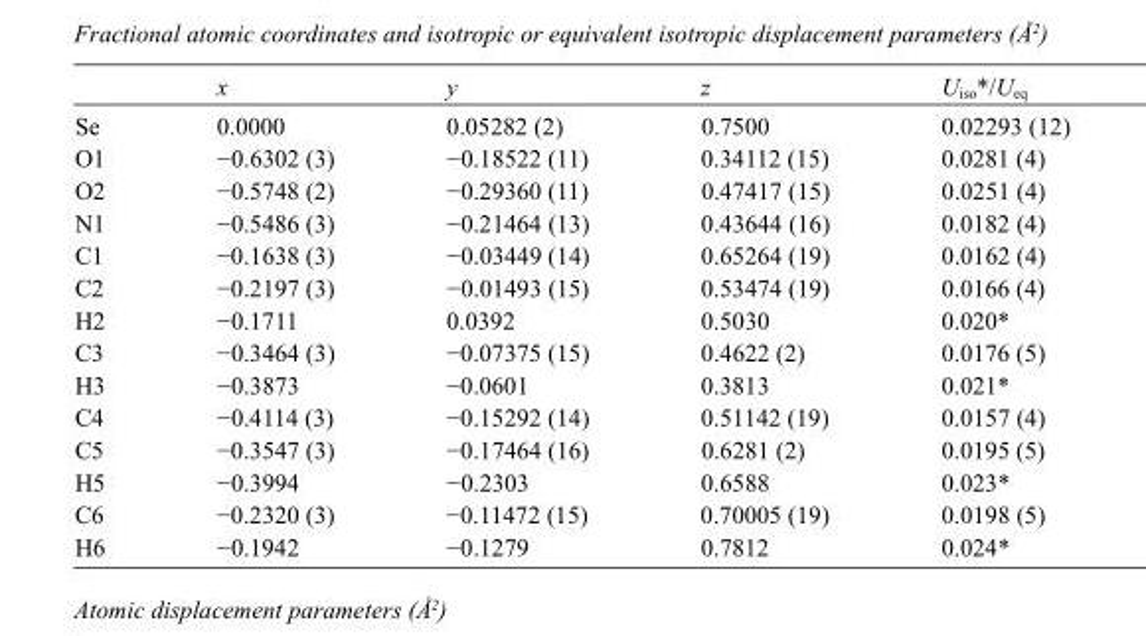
<table><thead><tr><td></td><td>x</td><td>y</td><td>z</td><td>U<sub>iso</sub>*/U<sub>eq</sub></td></tr></thead><tbody><tr><td>Se</td><td>0.0000</td><td>0.05282 (2)</td><td>0.7500</td><td>0.02293 (12)</td></tr><tr><td>O1</td><td>−0.6302 (3)</td><td>−0.18522 (11)</td><td>0.34112 (15)</td><td>0.0281 (4)</td></tr><tr><td>O2</td><td>−0.5748 (2)</td><td>−0.29360 (11)</td><td>0.47417 (15)</td><td>0.0251 (4)</td></tr><tr><td>N1</td><td>−0.5486 (3)</td><td>−0.21464 (13)</td><td>0.43644 (16)</td><td>0.0182 (4)</td></tr><tr><td>C1</td><td>−0.1638 (3)</td><td>−0.03449 (14)</td><td>0.65264 (19)</td><td>0.0162 (4)</td></tr><tr><td>C2</td><td>−0.2197 (3)</td><td>−0.01493 (15)</td><td>0.53474 (19)</td><td>0.0166 (4)</td></tr><tr><td>H2</td><td>−0.1711</td><td>0.0392</td><td>0.5030</td><td>0.020*</td></tr><tr><td>C3</td><td>−0.3464 (3)</td><td>−0.07375 (15)</td><td>0.4622 (2)</td><td>0.0176 (5)</td></tr><tr><td>H3</td><td>−0.3873</td><td>−0.0601</td><td>0.3813</td><td>0.021*</td></tr><tr><td>C4</td><td>−0.4114 (3)</td><td>−0.15292 (14)</td><td>0.51142 (19)</td><td>0.0157 (4)</td></tr><tr><td>C5</td><td>−0.3547 (3)</td><td>−0.17464 (16)</td><td>0.6281 (2)</td><td>0.0195 (5)</td></tr><tr><td>H5</td><td>−0.3994</td><td>−0.2303</td><td>0.6588</td><td>0.023*</td></tr><tr><td>C6</td><td>−0.2320 (3)</td><td>−0.11472 (15)</td><td>0.70005 (19)</td><td>0.0198 (5)</td></tr><tr><td>H6</td><td>−0.1942</td><td>−0.1279</td><td>0.7812</td><td>0.024*</td></tr></tbody></table>